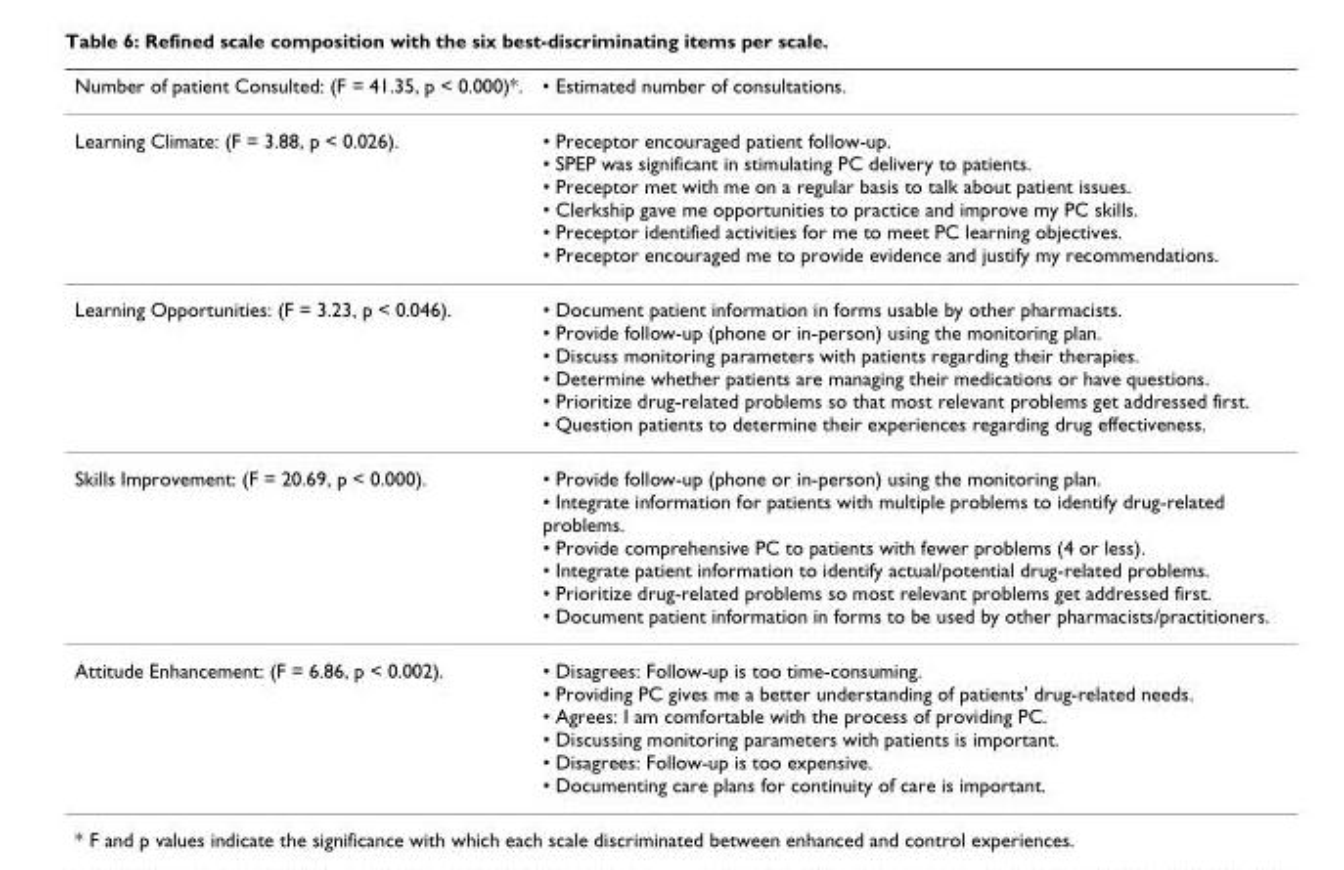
<table><thead><tr><td>Number of patient Consulted: (F = 41.35, p &lt; 0.000)*.</td><td>• Estimated number of consultations.</td></tr></thead><tbody><tr><td>Learning Climate: (F = 3.88, p &lt; 0.026).</td><td>• Preceptor encouraged patient follow-up. • SPEP was significant in stimulating PC delivery to patients. • Preceptor met with me on a regular basis to talk about patient issues. • Clerkship gave me opportunities to practice and improve my PC skills. • Preceptor identified activities for me to meet PC learning objectives. • Preceptor encouraged me to provide evidence and justify my recommendations.</td></tr><tr><td>Learning Opportunities: (F = 3.23, p &lt; 0.046).</td><td>• Document patient information in forms usable by other pharmacists. • Provide follow-up (phone or in-person) using the monitoring plan. • Discuss monitoring parameters with patients regarding their therapies. • Determine whether patients are managing their medications or have questions. • Prioritize drug-related problems so that most relevant problems get addressed first. • Question patients to determine their experiences regarding drug effectiveness.</td></tr><tr><td>Skills Improvement: (F = 20.69, p &lt; 0.000).</td><td>• Provide follow-up (phone or in-person) using the monitoring plan. • Integrate information for patients with multiple problems to identify drug-related problems. • Provide comprehensive PC to patients with fewer problems (4 or less). • Integrate patient information to identify actual/potential drug-related problems. • Prioritize drug-related problems so most relevant problems get addressed first. • Document patient information in forms to be used by other pharmacists/practitioners.</td></tr><tr><td>Attitude Enhancement: (F = 6.86, p &lt; 0.002).</td><td>• Disagrees: Follow-up is too time-consuming. • Providing PC gives me a better understanding of patients&#x27; drug-related needs. • Agrees: I am comfortable with the process of providing PC. • Discussing monitoring parameters with patients is important. • Disagrees: Follow-up is too expensive. • Documenting care plans for continuity of care is important.</td></tr></tbody></table>